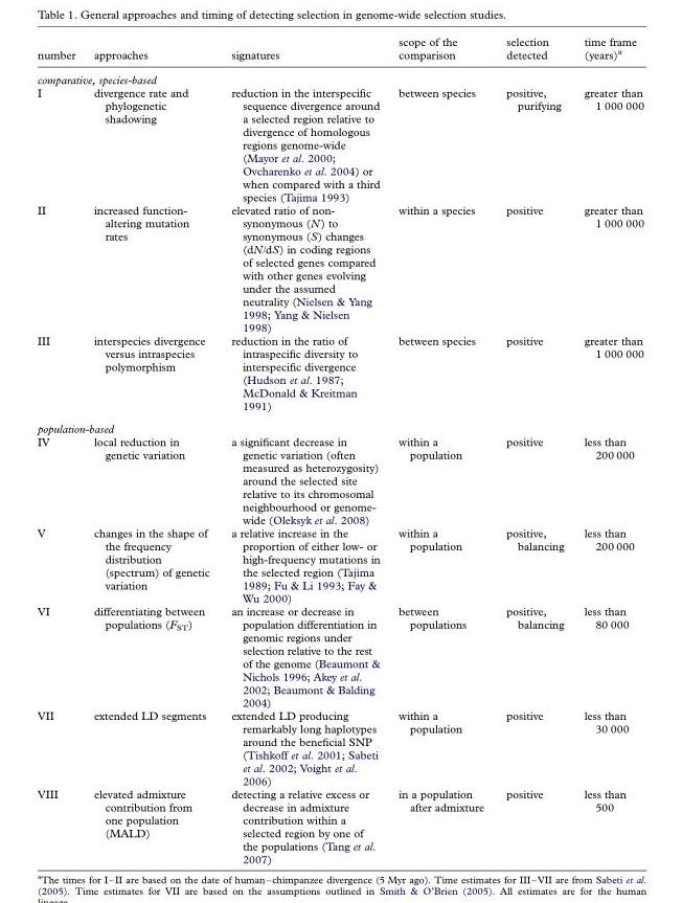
<table><thead><tr><td>number</td><td>approaches</td><td>signatures</td><td>scope of the comparison</td><td>selection detected</td><td>time frame (years)<sup>a</sup></td></tr></thead><tbody><tr><td colspan="6">comparative, species-based</td></tr><tr><td>I</td><td>divergence rate and phylogenetic shadowing</td><td>reduction in the interspecific sequence divergence around a selected region relative to divergence of homologous regions genome-wide (Mayor et al. 2000; Ovcharenko et al. 2004) or when compared with a third species (Tajima 1993)</td><td>between species</td><td>positive, purifying</td><td>greater than 1 000 000</td></tr><tr><td>II</td><td>increased function- altering mutation rates</td><td>elevated ratio of non- synonymous (N) to synonymous (S) changes (dN/dS) in coding regions of selected genes compared with other genes evolving under the assumed neutrality (Nielsen &amp; Yang 1998; Yang &amp; Nielsen 1998)</td><td>within a species</td><td>positive</td><td>greater than 1 000 000</td></tr><tr><td>III</td><td>interspecies divergence versus intraspecies polymorphism</td><td>reduction in the ratio of intraspecific diversity to interspecific divergence (Hudson et al. 1987; McDonald &amp; Kreitman 1991)</td><td>between species</td><td>positive</td><td>greater than 1 000 000</td></tr><tr><td colspan="6">population-based</td></tr><tr><td>IV</td><td>local reduction in genetic variation</td><td>a significant decrease in genetic variation (often measured as heterozygosity) around the selected site relative to its chromosomal neighbourhood or genome- wide (Oleksyk et al. 2008)</td><td>within a population</td><td>positive</td><td>less than 200 000</td></tr><tr><td>V</td><td>changes in the shape of the frequency distribution (spectrum) of genetic variation</td><td>a relative increase in the proportion of either low- or high-frequency mutations in the selected region (Tajima 1989; Fu &amp; Li 1993; Fay &amp; Wu 2000)</td><td>within a population</td><td>positive, balancing</td><td>less than 200 000</td></tr><tr><td>VI</td><td>differentiating between populations (F<sub>ST</sub>)</td><td>an increase or decrease in population differentiation in genomic regions under selection relative to the rest of the genome (Beaumont &amp; Nichols 1996; Akey et al. 2002; Beaumont &amp; Balding 2004)</td><td>between populations</td><td>positive, balancing</td><td>less than 80 000</td></tr><tr><td>VII</td><td>extended LD segments</td><td>extended LD producing remarkably long haplotypes around the beneficial SNP (Tishkoff et al. 2001; Sabeti et al. 2002; Voight et al. 2006)</td><td>within a population</td><td>positive</td><td>less than 30 000</td></tr><tr><td>VIII</td><td>elevated admixture contribution from one population (MALD)</td><td>detecting a relative excess or decrease in admixture contribution within a selected region by one of the populations (Tang et al. 2007)</td><td>in a population after admixture</td><td>positive</td><td>less than 500</td></tr></tbody></table>